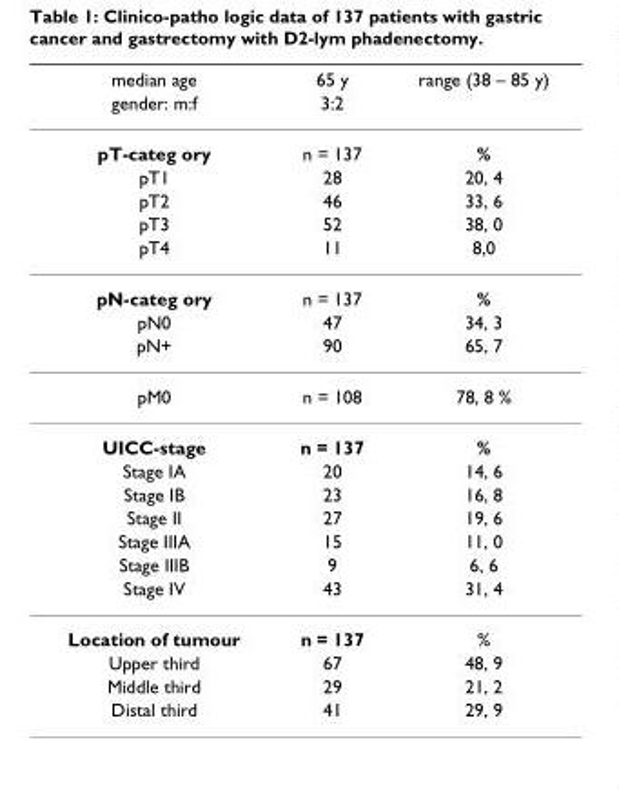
<table><thead><tr><td rowspan="2">median age gender: m:f</td><td rowspan="2">65 y 3:2</td><td rowspan="2">range (38 – 85 y)</td></tr><tr></tr></thead><tbody><tr><td>pT-categ ory</td><td>n = 137</td><td>%</td></tr><tr><td>pT1</td><td>28</td><td>20, 4</td></tr><tr><td>pT2</td><td>46</td><td>33, 6</td></tr><tr><td>pT3</td><td>52</td><td>38, 0</td></tr><tr><td>pT4</td><td>11</td><td>8,0</td></tr><tr><td>pN-categ ory</td><td>n = 137</td><td>%</td></tr><tr><td>pN0</td><td>47</td><td>34, 3</td></tr><tr><td>pN+</td><td>90</td><td>65, 7</td></tr><tr><td>pM0</td><td>n = 108</td><td>78, 8 %</td></tr><tr><td>UICC-stage</td><td>n = 137</td><td>%</td></tr><tr><td>Stage IA</td><td>20</td><td>14, 6</td></tr><tr><td>Stage IB</td><td>23</td><td>16, 8</td></tr><tr><td>Stage II</td><td>27</td><td>19, 6</td></tr><tr><td>Stage IIIA</td><td>15</td><td>11, 0</td></tr><tr><td>Stage IIIB</td><td>9</td><td>6, 6</td></tr><tr><td>Stage IV</td><td>43</td><td>31, 4</td></tr><tr><td>Location of tumour</td><td>n = 137</td><td>%</td></tr><tr><td>Upper third</td><td>67</td><td>48, 9</td></tr><tr><td>Middle third</td><td>29</td><td>21, 2</td></tr><tr><td>Distal third</td><td>41</td><td>29, 9</td></tr></tbody></table>